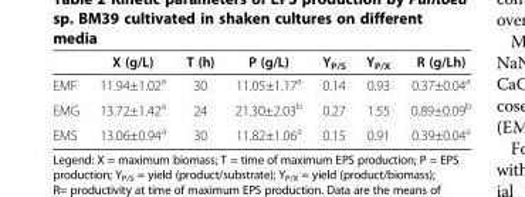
<table><thead><tr><td></td><td>X (g/L)</td><td>T (h)</td><td>P (g/L)</td><td>Y<sub>P/S</sub></td><td>Y<sub>P/X</sub></td><td>R (g/Lh)</td></tr></thead><tbody><tr><td>EMF</td><td>11.94±1.02<sup>a</sup></td><td>30</td><td>11.05±1.17<sup>a</sup></td><td>0.14</td><td>0.93</td><td>0.37±0.04<sup>a</sup></td></tr><tr><td>EMG</td><td>13.72±1.42<sup>a</sup></td><td>24</td><td>21.30±2.03<sup>b</sup></td><td>0.27</td><td>1.55</td><td>0.89±0.09<sup>b</sup></td></tr><tr><td>EMS</td><td>13.06±0.94<sup>a</sup></td><td>30</td><td>11.82±1.06<sup>a</sup></td><td>0.15</td><td>0.91</td><td>0.39±0.04<sup>a</sup></td></tr></tbody></table>